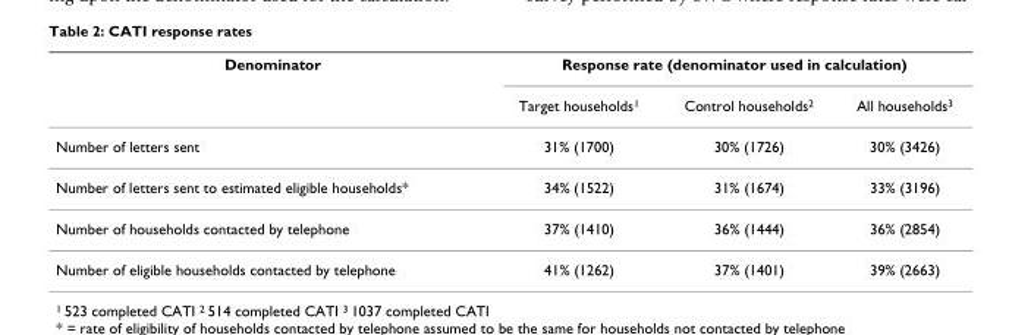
<table><thead><tr><td rowspan="2">Denominator</td><td colspan="3">Response rate (denominator used in calculation)</td></tr><tr><td>Target households<sup>1</sup></td><td>Control households<sup>2</sup></td><td>All households<sup>3</sup></td></tr></thead><tbody><tr><td>Number of letters sent</td><td>31% (1700)</td><td>30% (1726)</td><td>30% (3426)</td></tr><tr><td>Number of letters sent to estimated eligible households*</td><td>34% (1522)</td><td>31% (1674)</td><td>33% (3196)</td></tr><tr><td>Number of households contacted by telephone</td><td>37% (1410)</td><td>36% (1444)</td><td>36% (2854)</td></tr><tr><td>Number of eligible households contacted by telephone</td><td>41% (1262)</td><td>37% (1401)</td><td>39% (2663)</td></tr></tbody></table>